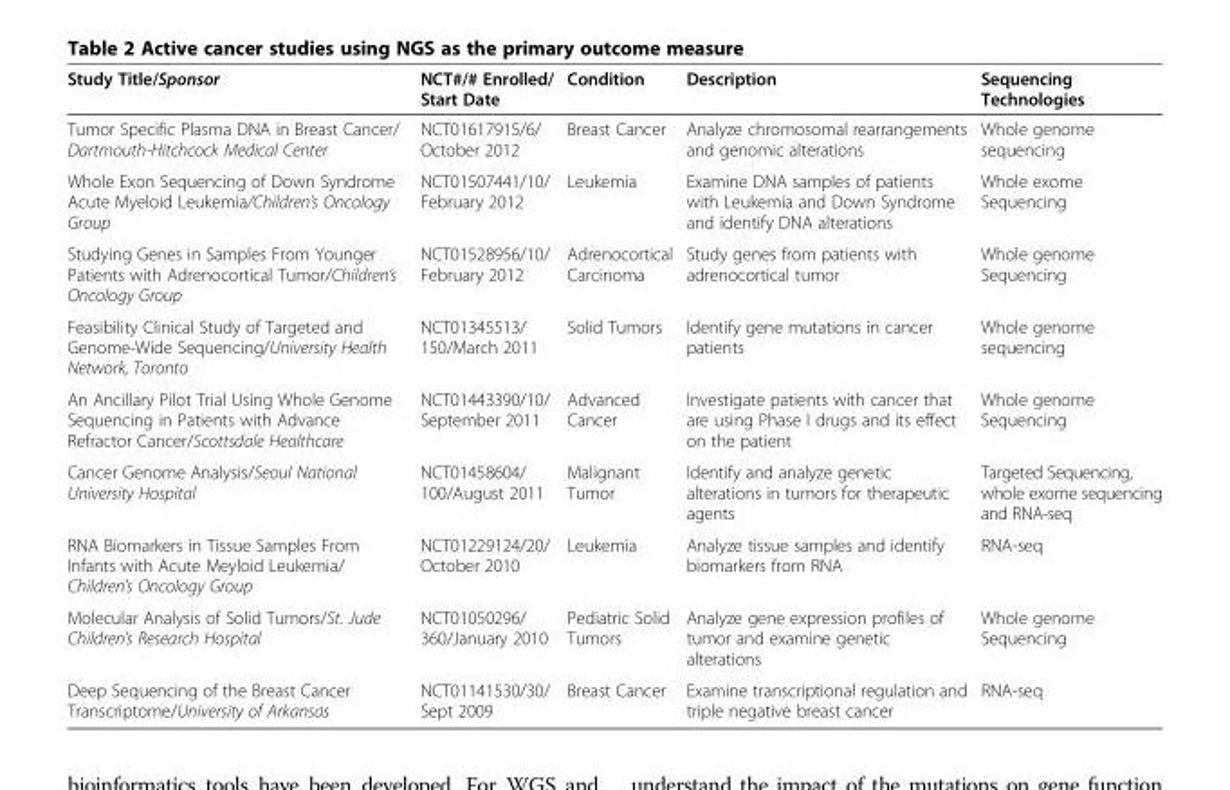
<table><thead><tr><td>Study Title/Sponsor</td><td>NCT#/# Enrolled/ Start Date</td><td>Condition</td><td>Description</td><td>Sequencing Technologies</td></tr></thead><tbody><tr><td>Tumor Specific Plasma DNA in Breast Cancer/ Dartmouth-Hitchcock Medical Center</td><td>NCT01617915/6/ October 2012</td><td>Breast Cancer</td><td>Analyze chromosomal rearrangements and genomic alterations</td><td>Whole genome sequencing</td></tr><tr><td>Whole Exon Sequencing of Down Syndrome Acute Myeloid Leukemia/Children’s Oncology Group</td><td>NCT01507441/10/ February 2012</td><td>Leukemia</td><td>Examine DNA samples of patients with Leukemia and Down Syndrome and identify DNA alterations</td><td>Whole exome Sequencing</td></tr><tr><td>Studying Genes in Samples From Younger Patients with Adrenocortical Tumor/Children’s Oncology Group</td><td>NCT01528956/10/ February 2012</td><td>Adrenocortical Carcinoma</td><td>Study genes from patients with adrenocortical tumor</td><td>Whole genome Sequencing</td></tr><tr><td>Feasibility Clinical Study of Targeted and Genome-Wide Sequencing/University Health Network, Toronto</td><td>NCT01345513/ 150/March 2011</td><td>Solid Tumors</td><td>Identify gene mutations in cancer patients</td><td>Whole genome sequencing</td></tr><tr><td>An Ancillary Pilot Trial Using Whole Genome Sequencing in Patients with Advance Refractor Cancer/Scottsdale Healthcare</td><td>NCT01443390/10/ September 2011</td><td>Advanced Cancer</td><td>Investigate patients with cancer that are using Phase I drugs and its effect on the patient</td><td>Whole genome Sequencing</td></tr><tr><td>Cancer Genome Analysis/Seoul National University Hospital</td><td>NCT01458604/ 100/August 2011</td><td>Malignant Tumor</td><td>Identify and analyze genetic alterations in tumors for therapeutic agents</td><td>Targeted Sequencing, whole exome sequencing and RNA-seq</td></tr><tr><td>RNA Biomarkers in Tissue Samples From Infants with Acute Meyloid Leukemia/ Children’s Oncology Group</td><td>NCT01229124/20/ October 2010</td><td>Leukemia</td><td>Analyze tissue samples and identify biomarkers from RNA</td><td>RNA-seq</td></tr><tr><td>Molecular Analysis of Solid Tumors/St. Jude Children’s Research Hospital</td><td>NCT01050296/ 360/January 2010</td><td>Pediatric Solid Tumors</td><td>Analyze gene expression profiles of tumor and examine genetic alterations</td><td>Whole genome Sequencing</td></tr><tr><td>Deep Sequencing of the Breast Cancer Transcriptome/University of Arkansas</td><td>NCT01141530/30/ Sept 2009</td><td>Breast Cancer</td><td>Examine transcriptional regulation and triple negative breast cancer</td><td>RNA-seq</td></tr></tbody></table>